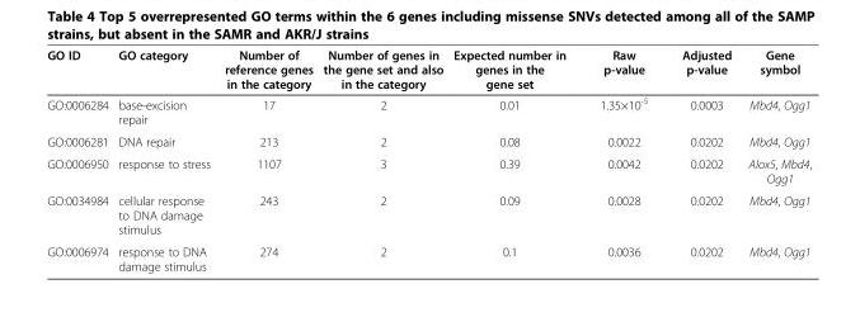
<table><thead><tr><td>GO ID</td><td>GO category</td><td>Number of reference genes in the category</td><td>Number of genes in the gene set and also in the category</td><td>Expected number in genes in the gene set</td><td>Raw p-value</td><td>Adjusted p-value</td><td>Gene symbol</td></tr></thead><tbody><tr><td>GO:0006284</td><td>base-excision repair</td><td>17</td><td>2</td><td>0.01</td><td>1.35×10<sup>-5</sup></td><td>0.0003</td><td>Mbd4, Ogg1</td></tr><tr><td>GO:0006281</td><td>DNA repair</td><td>213</td><td>2</td><td>0.08</td><td>0.0022</td><td>0.0202</td><td>Mbd4, Ogg1</td></tr><tr><td>GO:0006950</td><td>response to stress</td><td>1107</td><td>3</td><td>0.39</td><td>0.0042</td><td>0.0202</td><td>Alox5, Mbd4, Ogg1</td></tr><tr><td>GO:0034984</td><td>cellular response to DNA damage stimulus</td><td>243</td><td>2</td><td>0.09</td><td>0.0028</td><td>0.0202</td><td>Mbd4, Ogg1</td></tr><tr><td>GO:0006974</td><td>response to DNA damage stimulus</td><td>274</td><td>2</td><td>0.1</td><td>0.0036</td><td>0.0202</td><td>Mbd4, Ogg1</td></tr></tbody></table>